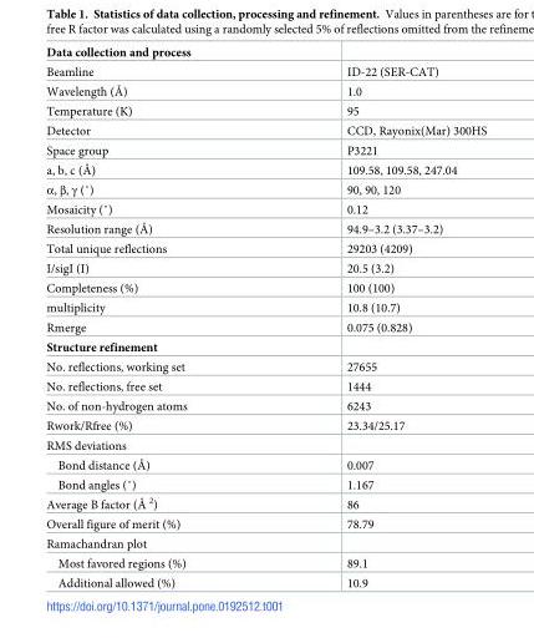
<table><tbody><tr><td colspan="2">Data collection and process</td></tr><tr><td>Beamline</td><td>ID-22 (SER-CAT)</td></tr><tr><td>Wavelength (Å)</td><td>1.0</td></tr><tr><td>Temperature (K)</td><td>95</td></tr><tr><td>Detector</td><td>CCD, Rayonix(Mar) 300HS</td></tr><tr><td>Space group</td><td>P3221</td></tr><tr><td>a, b, c (Å)</td><td>109.58, 109.58, 247.04</td></tr><tr><td>α, β, γ (˚)</td><td>90, 90, 120</td></tr><tr><td>Mosaicity (˚)</td><td>0.12</td></tr><tr><td>Resolution range (Å)</td><td>94.9–3.2 (3.37–3.2)</td></tr><tr><td>Total unique reflections</td><td>29203 (4209)</td></tr><tr><td>I/sigI (I)</td><td>20.5 (3.2)</td></tr><tr><td>Completeness (%)</td><td>100 (100)</td></tr><tr><td>multiplicity</td><td>10.8 (10.7)</td></tr><tr><td>Rmerge</td><td>0.075 (0.828)</td></tr><tr><td colspan="2">Structure refinement</td></tr><tr><td>No. reflections, working set</td><td>27655</td></tr><tr><td>No. reflections, free set</td><td>1444</td></tr><tr><td>No. of non-hydrogen atoms</td><td>6243</td></tr><tr><td>Rwork/Rfree (%)</td><td>23.34/25.17</td></tr><tr><td colspan="2">RMS deviations</td></tr><tr><td>Bond distance (Å)</td><td>0.007</td></tr><tr><td>Bond angles (˚)</td><td>1.167</td></tr><tr><td>Average B factor (Å <sup>2</sup>)</td><td>86</td></tr><tr><td>Overall figure of merit (%)</td><td>78.79</td></tr><tr><td colspan="2">Ramachandran plot</td></tr><tr><td>Most favored regions (%)</td><td>89.1</td></tr><tr><td>Additional allowed (%)</td><td>10.9</td></tr></tbody></table>